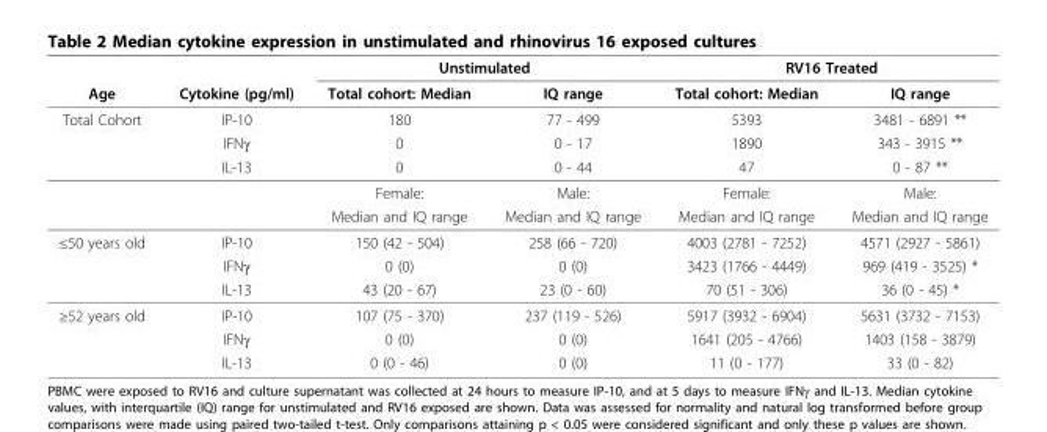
<table><thead><tr><td rowspan="2">Age</td><td rowspan="2">Cytokine (pg/ml)</td><td colspan="2">Unstimulated</td><td colspan="2">RV16 Treated</td></tr><tr><td>Total cohort: Median</td><td>IQ range</td><td>Total cohort: Median</td><td>IQ range</td></tr></thead><tbody><tr><td rowspan="5">Total Cohort</td><td>IP-10</td><td>180</td><td>77 - 499</td><td>5393</td><td>3481 - 6891 **</td></tr><tr><td>IFNγ</td><td>0</td><td>0 - 17</td><td>1890</td><td>343 - 3915 **</td></tr><tr><td>IL-13</td><td>0</td><td>0 - 44</td><td>47</td><td>0 - 87 **</td></tr><tr><td></td><td>Female:</td><td>Male:</td><td>Female:</td><td>Male:</td></tr><tr><td></td><td>Median and IQ range</td><td>Median and IQ range</td><td>Median and IQ range</td><td>Median and IQ range</td></tr><tr><td rowspan="3">≤50 years old</td><td>IP-10</td><td>150 (42 - 504)</td><td>258 (66 - 720)</td><td>4003 (2781 - 7252)</td><td>4571 (2927 - 5861)</td></tr><tr><td>IFNγ</td><td>0 (0)</td><td>0 (0)</td><td>3423 (1766 - 4449)</td><td>969 (419 - 3525) *</td></tr><tr><td>IL-13</td><td>43 (20 - 67)</td><td>23 (0 - 60)</td><td>70 (51 - 306)</td><td>36 (0 - 45) *</td></tr><tr><td rowspan="3">≥52 years old</td><td>IP-10</td><td>107 (75 - 370)</td><td>237 (119 - 526)</td><td>5917 (3932 - 6904)</td><td>5631 (3732 - 7153)</td></tr><tr><td>IFNγ</td><td>0 (0)</td><td>0 (0)</td><td>1641 (205 - 4766)</td><td>1403 (158 - 3879)</td></tr><tr><td>IL-13</td><td>0 (0 - 46)</td><td>0 (0)</td><td>11 (0 - 177)</td><td>33 (0 - 82)</td></tr></tbody></table>